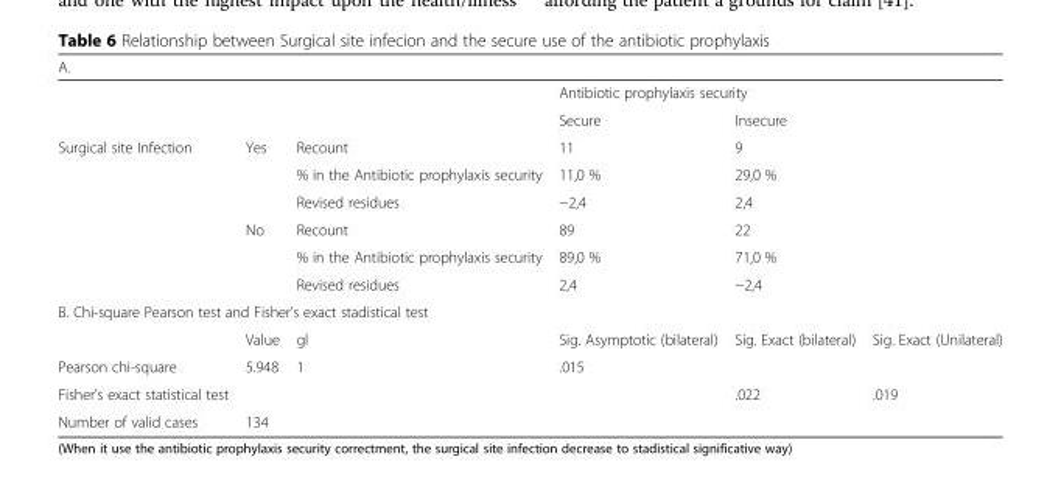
<table><thead><tr><td colspan="6">A.</td></tr></thead><tbody><tr><td rowspan="2" colspan="3"></td><td colspan="3">Antibiotic prophylaxis security</td></tr><tr><td>Secure</td><td colspan="2">Insecure</td></tr><tr><td rowspan="6">Surgical site Infection</td><td rowspan="3">Yes</td><td>Recount</td><td>11</td><td colspan="2">9</td></tr><tr><td>% in the Antibiotic prophylaxis security</td><td>11,0 %</td><td colspan="2">29,0 %</td></tr><tr><td>Revised residues</td><td>−2,4</td><td colspan="2">2,4</td></tr><tr><td rowspan="3">No</td><td>Recount</td><td>89</td><td colspan="2">22</td></tr><tr><td>% in the Antibiotic prophylaxis security</td><td>89,0 %</td><td colspan="2">71,0 %</td></tr><tr><td>Revised residues</td><td>2,4</td><td colspan="2">−2,4</td></tr><tr><td colspan="6">B. Chi-square Pearson test and Fisher’s exact stadistical test</td></tr><tr><td></td><td>Value</td><td>gl</td><td>Sig. Asymptotic (bilateral)</td><td>Sig. Exact (bilateral)</td><td>Sig. Exact (Unilateral)</td></tr><tr><td>Pearson chi-square</td><td>5.948</td><td>1</td><td>.015</td><td></td><td></td></tr><tr><td>Fisher’s exact statistical test</td><td></td><td></td><td></td><td>.022</td><td>.019</td></tr><tr><td>Number of valid cases</td><td colspan="2">134</td><td></td><td></td><td></td></tr></tbody></table>